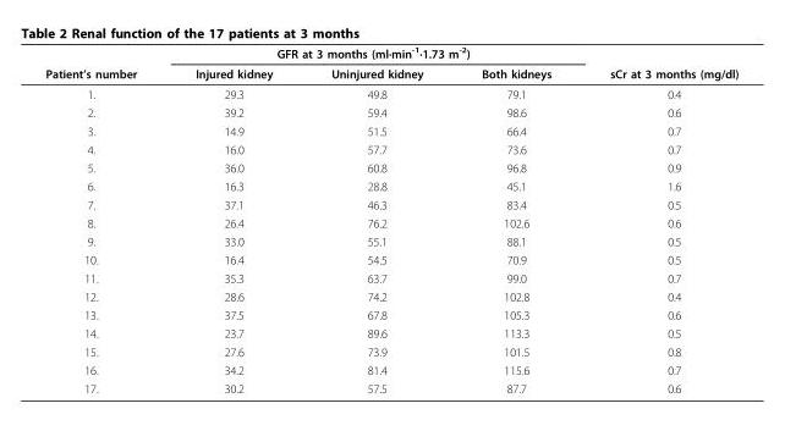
<table><thead><tr><td rowspan="2">Patient’s number</td><td colspan="3">GFR at 3 months (ml·min<sup>-1</sup>·1.73 m<sup>-2</sup>)</td><td rowspan="2">sCr at 3 months (mg/dl)</td></tr><tr><td>Injured kidney</td><td>Uninjured kidney</td><td>Both kidneys</td></tr></thead><tbody><tr><td>1.</td><td>29.3</td><td>49.8</td><td>79.1</td><td>0.4</td></tr><tr><td>2.</td><td>39.2</td><td>59.4</td><td>98.6</td><td>0.6</td></tr><tr><td>3.</td><td>14.9</td><td>51.5</td><td>66.4</td><td>0.7</td></tr><tr><td>4.</td><td>16.0</td><td>57.7</td><td>73.6</td><td>0.7</td></tr><tr><td>5.</td><td>36.0</td><td>60.8</td><td>96.8</td><td>0.9</td></tr><tr><td>6.</td><td>16.3</td><td>28.8</td><td>45.1</td><td>1.6</td></tr><tr><td>7.</td><td>37.1</td><td>46.3</td><td>83.4</td><td>0.5</td></tr><tr><td>8.</td><td>26.4</td><td>76.2</td><td>102.6</td><td>0.6</td></tr><tr><td>9.</td><td>33.0</td><td>55.1</td><td>88.1</td><td>0.5</td></tr><tr><td>10.</td><td>16.4</td><td>54.5</td><td>70.9</td><td>0.5</td></tr><tr><td>11.</td><td>35.3</td><td>63.7</td><td>99.0</td><td>0.7</td></tr><tr><td>12.</td><td>28.6</td><td>74.2</td><td>102.8</td><td>0.4</td></tr><tr><td>13.</td><td>37.5</td><td>67.8</td><td>105.3</td><td>0.6</td></tr><tr><td>14.</td><td>23.7</td><td>89.6</td><td>113.3</td><td>0.5</td></tr><tr><td>15.</td><td>27.6</td><td>73.9</td><td>101.5</td><td>0.8</td></tr><tr><td>16.</td><td>34.2</td><td>81.4</td><td>115.6</td><td>0.7</td></tr><tr><td>17.</td><td>30.2</td><td>57.5</td><td>87.7</td><td>0.6</td></tr></tbody></table>